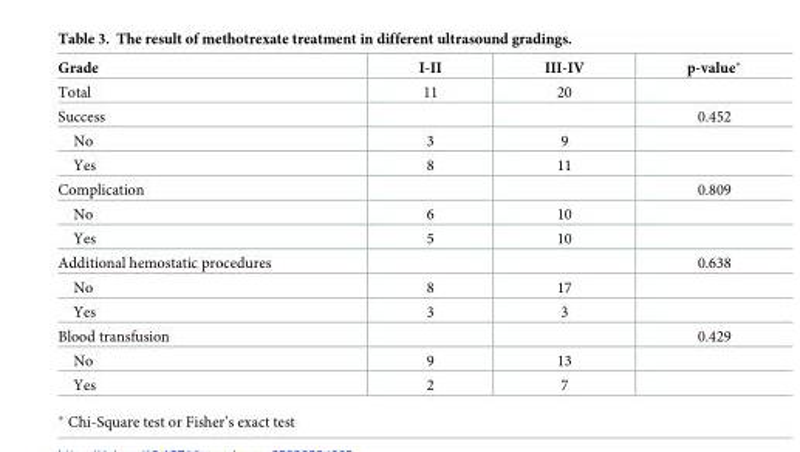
<table><thead><tr><td>Grade</td><td>I-II</td><td>III-IV</td><td>p-value*</td></tr></thead><tbody><tr><td>Total</td><td>11</td><td>20</td><td></td></tr><tr><td>Success</td><td></td><td></td><td>0.452</td></tr><tr><td>No</td><td>3</td><td>9</td><td></td></tr><tr><td>Yes</td><td>8</td><td>11</td><td></td></tr><tr><td>Complication</td><td></td><td></td><td>0.809</td></tr><tr><td>No</td><td>6</td><td>10</td><td></td></tr><tr><td>Yes</td><td>5</td><td>10</td><td></td></tr><tr><td>Additional hemostatic procedures</td><td></td><td></td><td>0.638</td></tr><tr><td>No</td><td>8</td><td>17</td><td></td></tr><tr><td>Yes</td><td>3</td><td>3</td><td></td></tr><tr><td>Blood transfusion</td><td></td><td></td><td>0.429</td></tr><tr><td>No</td><td>9</td><td>13</td><td></td></tr><tr><td>Yes</td><td>2</td><td>7</td><td></td></tr></tbody></table>